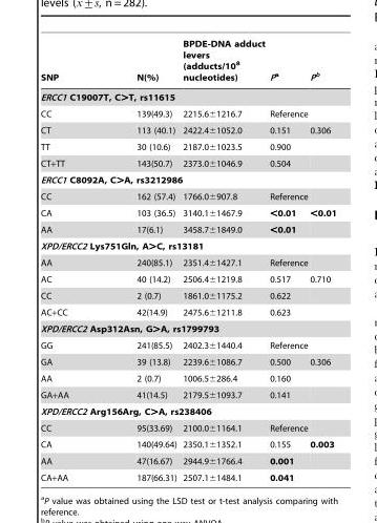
<table><thead><tr><td>SNP</td><td>N(%)</td><td>BPDE-DNA adduct levers (adducts/10<sup>8</sup> nucleotides)</td><td>Pa</td><td>Pb</td></tr></thead><tbody><tr><td colspan="5">ERCC1 C19007T, C&gt;T, rs11615</td></tr><tr><td>CC</td><td>139(49.3)</td><td>2215.6±1216.7</td><td>Reference</td><td></td></tr><tr><td>CT</td><td>113 (40.1)</td><td>2422.4±1052.0</td><td>0.151</td><td>0.306</td></tr><tr><td>TT</td><td>30 (10.6)</td><td>2187.0±1023.5</td><td>0.900</td><td></td></tr><tr><td>CT+TT</td><td>143(50.7)</td><td>2373.0±1046.9</td><td>0.504</td><td></td></tr><tr><td colspan="5">ERCC1 C8092A, C&gt;A, rs3212986</td></tr><tr><td>CC</td><td>162 (57.4)</td><td>1766.0±907.8</td><td>Reference</td><td></td></tr><tr><td>CA</td><td>103 (36.5)</td><td>3140.1±1467.9</td><td>&lt;0.01</td><td>&lt;0.01</td></tr><tr><td>AA</td><td>17(6.1)</td><td>3458.7±1849.0</td><td>&lt;0.01</td><td></td></tr><tr><td colspan="5">XPD/ERCC2 Lys751Gln, A&gt;C, rs13181</td></tr><tr><td>AA</td><td>240(85.1)</td><td>2351.4±1427.1</td><td>Reference</td><td></td></tr><tr><td>AC</td><td>40 (14.2)</td><td>2506.4±1219.8</td><td>0.517</td><td>0.710</td></tr><tr><td>CC</td><td>2 (0.7)</td><td>1861.0±1175.2</td><td>0.622</td><td></td></tr><tr><td>AC+CC</td><td>42(14.9)</td><td>2475.6±1211.8</td><td>0.623</td><td></td></tr><tr><td colspan="5">XPD/ERCC2 Asp312Asn, G&gt;A, rs1799793</td></tr><tr><td>GG</td><td>241(85.5)</td><td>2402.3±1440.4</td><td>Reference</td><td></td></tr><tr><td>GA</td><td>39 (13.8)</td><td>2239.6±1086.7</td><td>0.500</td><td>0.306</td></tr><tr><td>AA</td><td>2 (0.7)</td><td>1006.5±286.4</td><td>0.160</td><td></td></tr><tr><td>GA+AA</td><td>41(14.5)</td><td>2179.5±1093.7</td><td>0.141</td><td></td></tr><tr><td colspan="5">XPD/ERCC2 Arg156Arg, C&gt;A, rs238406</td></tr><tr><td>CC</td><td>95(33.69)</td><td>2100.0±1164.1</td><td>Reference</td><td></td></tr><tr><td>CA</td><td>140(49.64)</td><td>2350.1±1352.1</td><td>0.155</td><td>0.003</td></tr><tr><td>AA</td><td>47(16.67)</td><td>2944.9±1766.4</td><td>0.001</td><td></td></tr><tr><td>CA+AA</td><td>187(66.31)</td><td>2507.1±1484.1</td><td>0.041</td><td></td></tr></tbody></table>